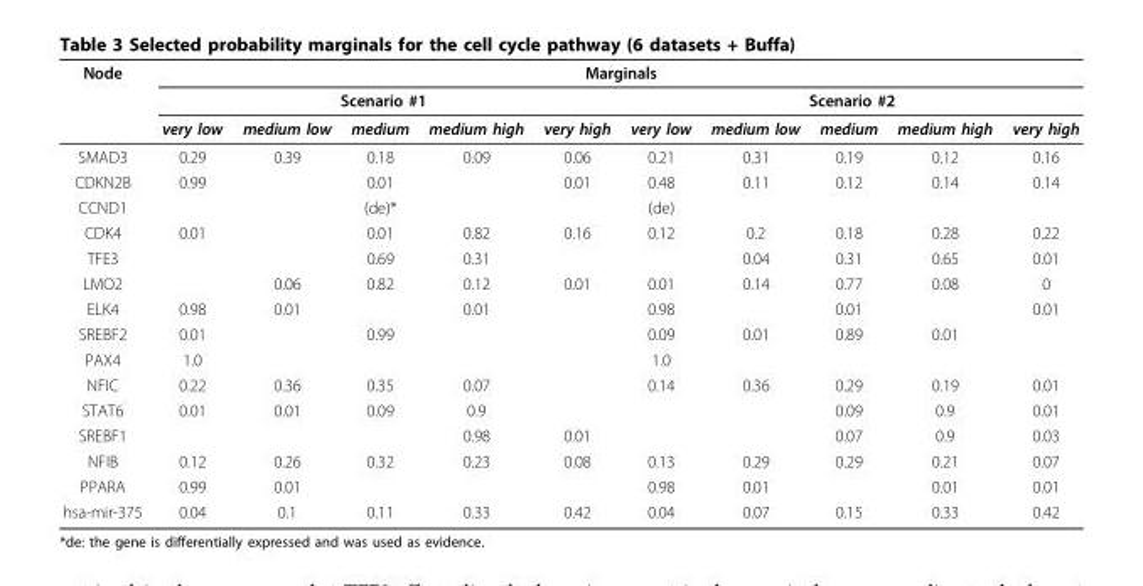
<table><thead><tr><td rowspan="3">Node</td><td colspan="10">Marginals</td></tr><tr><td rowspan="2">very low</td><td colspan="3">Scenario #1</td><td rowspan="2">very high</td><td rowspan="2">very low</td><td colspan="3">Scenario #2</td><td rowspan="2">very high</td></tr><tr><td>medium low</td><td>medium</td><td>medium high</td><td>medium low</td><td>medium</td><td>medium high</td></tr></thead><tbody><tr><td>SMAD3</td><td>0.29</td><td>0.39</td><td>0.18</td><td>0.09</td><td>0.06</td><td>0.21</td><td>0.31</td><td>0.19</td><td>0.12</td><td>0.16</td></tr><tr><td>CDKN2B</td><td>0.99</td><td></td><td>0.01</td><td></td><td>0.01</td><td>0.48</td><td>0.11</td><td>0.12</td><td>0.14</td><td>0.14</td></tr><tr><td>CCND1</td><td></td><td></td><td>(de)*</td><td></td><td></td><td>(de)</td><td></td><td></td><td></td><td></td></tr><tr><td>CDK4</td><td>0.01</td><td></td><td>0.01</td><td>0.82</td><td>0.16</td><td>0.12</td><td>0.2</td><td>0.18</td><td>0.28</td><td>0.22</td></tr><tr><td>TFE3</td><td></td><td></td><td>0.69</td><td>0.31</td><td></td><td></td><td>0.04</td><td>0.31</td><td>0.65</td><td>0.01</td></tr><tr><td>LMO2</td><td></td><td>0.06</td><td>0.82</td><td>0.12</td><td>0.01</td><td>0.01</td><td>0.14</td><td>0.77</td><td>0.08</td><td>0</td></tr><tr><td>ELK4</td><td>0.98</td><td>0.01</td><td></td><td>0.01</td><td></td><td>0.98</td><td></td><td>0.01</td><td></td><td>0.01</td></tr><tr><td>SREBF2</td><td>0.01</td><td></td><td>0.99</td><td></td><td></td><td>0.09</td><td>0.01</td><td>0.89</td><td>0.01</td><td></td></tr><tr><td>PAX4</td><td>1.0</td><td></td><td></td><td></td><td></td><td>1.0</td><td></td><td></td><td></td><td></td></tr><tr><td>NFIC</td><td>0.22</td><td>0.36</td><td>0.35</td><td>0.07</td><td></td><td>0.14</td><td>0.36</td><td>0.29</td><td>0.19</td><td>0.01</td></tr><tr><td>STAT6</td><td>0.01</td><td>0.01</td><td>0.09</td><td>0.9</td><td></td><td></td><td></td><td>0.09</td><td>0.9</td><td>0.01</td></tr><tr><td>SREBF1</td><td></td><td></td><td></td><td>0.98</td><td>0.01</td><td></td><td></td><td>0.07</td><td>0.9</td><td>0.03</td></tr><tr><td>NFIB</td><td>0.12</td><td>0.26</td><td>0.32</td><td>0.23</td><td>0.08</td><td>0.13</td><td>0.29</td><td>0.29</td><td>0.21</td><td>0.07</td></tr><tr><td>PPARA</td><td>0.99</td><td>0.01</td><td></td><td></td><td></td><td>0.98</td><td>0.01</td><td></td><td>0.01</td><td>0.01</td></tr><tr><td>hsa-mir-375</td><td>0.04</td><td>0.1</td><td>0.11</td><td>0.33</td><td>0.42</td><td>0.04</td><td>0.07</td><td>0.15</td><td>0.33</td><td>0.42</td></tr></tbody></table>